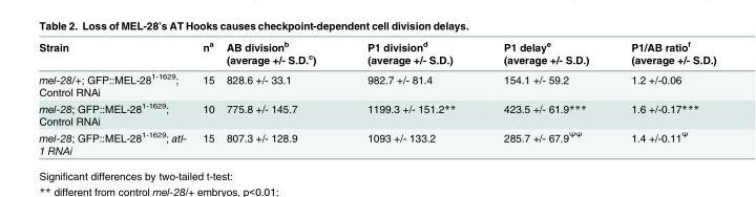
<table><thead><tr><td>Strain</td><td>n<sup>a</sup></td><td>AB division<sup>b</sup> (average +/- S.D.<sup>c</sup>)</td><td>P1 division<sup>d</sup> (average +/- S.D.)</td><td>P1 delay<sup>e</sup> (average +/- S.D.)</td><td>P1/AB ratio<sup>f</sup> (average +/- S.D.)</td></tr></thead><tbody><tr><td>mel-28/+; GFP::MEL-28<sup>1-1629</sup>; Control RNAi</td><td>15</td><td>828.6 +/- 33.1</td><td>982.7 +/- 81.4</td><td>154.1 +/- 59.2</td><td>1.2 +/-0.06</td></tr><tr><td>mel-28; GFP::MEL-28<sup>1-1629</sup>; Control RNAi</td><td>10</td><td>775.8 +/- 145.7</td><td>1199.3 +/- 151.2**</td><td>423.5 +/- 61.9***</td><td>1.6 +/-0.17***</td></tr><tr><td>mel-28; GFP::MEL-28<sup>1-1629</sup>; atl- 1 RNAi</td><td>15</td><td>807.3 +/- 128.9</td><td>1093 +/- 133.2</td><td>285.7 +/- 67.9<sup>ΨΨ</sup></td><td>1.4 +/-0.11<sup>Ψ</sup></td></tr></tbody></table>